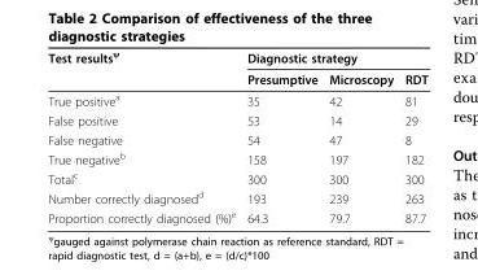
<table><thead><tr><td rowspan="2">Test results<sup>ψ</sup></td><td colspan="3">Diagnostic strategy</td></tr><tr><td>Presumptive</td><td>Microscopy</td><td>RDT</td></tr></thead><tbody><tr><td>True positive<sup>a</sup></td><td>35</td><td>42</td><td>81</td></tr><tr><td>False positive</td><td>53</td><td>14</td><td>29</td></tr><tr><td>False negative</td><td>54</td><td>47</td><td>8</td></tr><tr><td>True negative<sup>b</sup></td><td>158</td><td>197</td><td>182</td></tr><tr><td>Total<sup>c</sup></td><td>300</td><td>300</td><td>300</td></tr><tr><td>Number correctly diagnosed<sup>d</sup></td><td>193</td><td>239</td><td>263</td></tr><tr><td>Proportion correctly diagnosed (%)<sup>e</sup></td><td>64.3</td><td>79.7</td><td>87.7</td></tr></tbody></table>